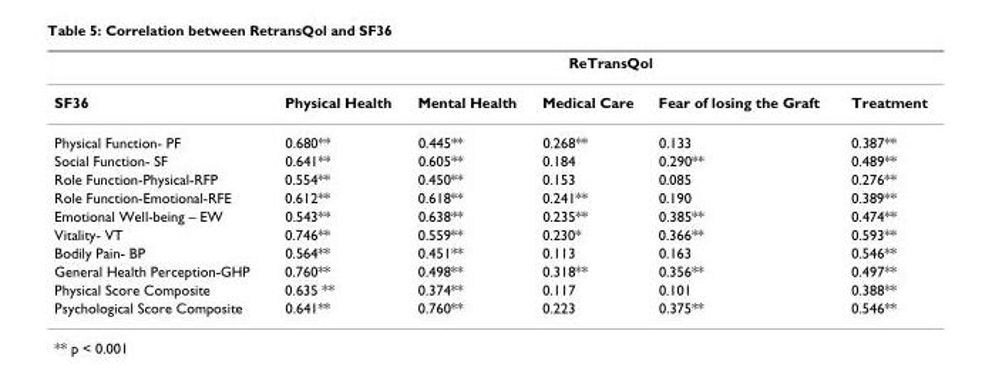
<table><thead><tr><td rowspan="2">SF36</td><td colspan="5">ReTransQol</td></tr><tr><td>Physical Health</td><td>Mental Health</td><td>Medical Care</td><td>Fear of losing the Graft</td><td>Treatment</td></tr></thead><tbody><tr><td>Physical Function- PF</td><td>0.680**</td><td>0.445**</td><td>0.268**</td><td>0.133</td><td>0.387**</td></tr><tr><td>Social Function- SF</td><td>0.641**</td><td>0.605**</td><td>0.184</td><td>0.290**</td><td>0.489**</td></tr><tr><td>Role Function-Physical-RFP</td><td>0.554**</td><td>0.450**</td><td>0.153</td><td>0.085</td><td>0.276**</td></tr><tr><td>Role Function-Emotional-RFE</td><td>0.612**</td><td>0.618**</td><td>0.241**</td><td>0.190</td><td>0.389**</td></tr><tr><td>Emotional Well-being – EW</td><td>0.543**</td><td>0.638**</td><td>0.235**</td><td>0.385**</td><td>0.474**</td></tr><tr><td>Vitality- VT</td><td>0.746**</td><td>0.559**</td><td>0.230*</td><td>0.366**</td><td>0.593**</td></tr><tr><td>Bodily Pain- BP</td><td>0.564**</td><td>0.451**</td><td>0.113</td><td>0.163</td><td>0.546**</td></tr><tr><td>General Health Perception-GHP</td><td>0.760**</td><td>0.498**</td><td>0.318**</td><td>0.356**</td><td>0.497**</td></tr><tr><td>Physical Score Composite</td><td>0.635 **</td><td>0.374**</td><td>0.117</td><td>0.101</td><td>0.388**</td></tr><tr><td>Psychological Score Composite</td><td>0.641**</td><td>0.760**</td><td>0.223</td><td>0.375**</td><td>0.546**</td></tr></tbody></table>